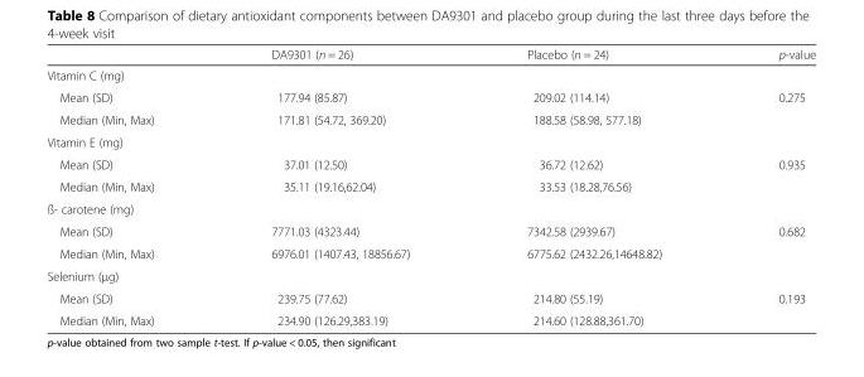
<table><thead><tr><td></td><td>DA9301 (n = 26)</td><td>Placebo (n = 24)</td><td>p-value</td></tr></thead><tbody><tr><td colspan="4">Vitamin C (mg)</td></tr><tr><td>Mean (SD)</td><td>177.94 (85.87)</td><td>209.02 (114.14)</td><td rowspan="2">0.275</td></tr><tr><td>Median (Min, Max)</td><td>171.81 (54.72, 369.20)</td><td>188.58 (58.98, 577.18)</td></tr><tr><td colspan="4">Vitamin E (mg)</td></tr><tr><td>Mean (SD)</td><td>37.01 (12.50)</td><td>36.72 (12.62)</td><td rowspan="2">0.935</td></tr><tr><td>Median (Min, Max)</td><td>35.11 (19.16,62.04)</td><td>33.53 (18.28,76.56)</td></tr><tr><td colspan="4">ß- carotene (mg)</td></tr><tr><td>Mean (SD)</td><td>7771.03 (4323.44)</td><td>7342.58 (2939.67)</td><td rowspan="2">0.682</td></tr><tr><td>Median (Min, Max)</td><td>6976.01 (1407.43, 18856.67)</td><td>6775.62 (2432.26,14648.82)</td></tr><tr><td colspan="4">Selenium (μg)</td></tr><tr><td>Mean (SD)</td><td>239.75 (77.62)</td><td>214.80 (55.19)</td><td rowspan="2">0.193</td></tr><tr><td>Median (Min, Max)</td><td>234.90 (126.29,383.19)</td><td>214.60 (128.88,361.70)</td></tr></tbody></table>